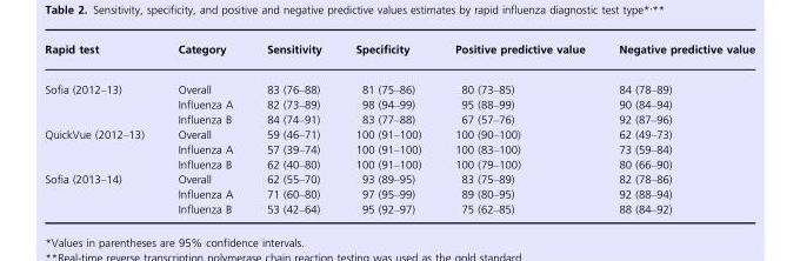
<table><thead><tr><td>Rapid test</td><td>Category</td><td>Sensitivity</td><td>Specificity</td><td>Positive predictive value</td><td>Negative predictive value</td></tr></thead><tbody><tr><td rowspan="3">Sofia (2012–13)</td><td>Overall</td><td>83 (76–88)</td><td>81 (75–86)</td><td>80 (73–85)</td><td>84 (78–89)</td></tr><tr><td>Influenza A</td><td>82 (73–89)</td><td>98 (94–99)</td><td>95 (88–99)</td><td>90 (84–94)</td></tr><tr><td>Influenza B</td><td>84 (74–91)</td><td>83 (77–88)</td><td>67 (57–76)</td><td>92 (87–96)</td></tr><tr><td rowspan="3">QuickVue (2012–13)</td><td>Overall</td><td>59 (46–71)</td><td>100 (91–100)</td><td>100 (90–100)</td><td>62 (49–73)</td></tr><tr><td>Influenza A</td><td>57 (39–74)</td><td>100 (91–100)</td><td>100 (83–100)</td><td>73 (59–84)</td></tr><tr><td>Influenza B</td><td>62 (40–80)</td><td>100 (91–100)</td><td>100 (79–100)</td><td>80 (66–90)</td></tr><tr><td rowspan="3">Sofia (2013–14)</td><td>Overall</td><td>62 (55–70)</td><td>93 (89–95)</td><td>83 (75–89)</td><td>82 (78–86)</td></tr><tr><td>Influenza A</td><td>71 (60–80)</td><td>97 (95–99)</td><td>89 (80–95)</td><td>92 (88–94)</td></tr><tr><td>Influenza B</td><td>53 (42–64)</td><td>95 (92–97)</td><td>75 (62–85)</td><td>88 (84–92)</td></tr></tbody></table>